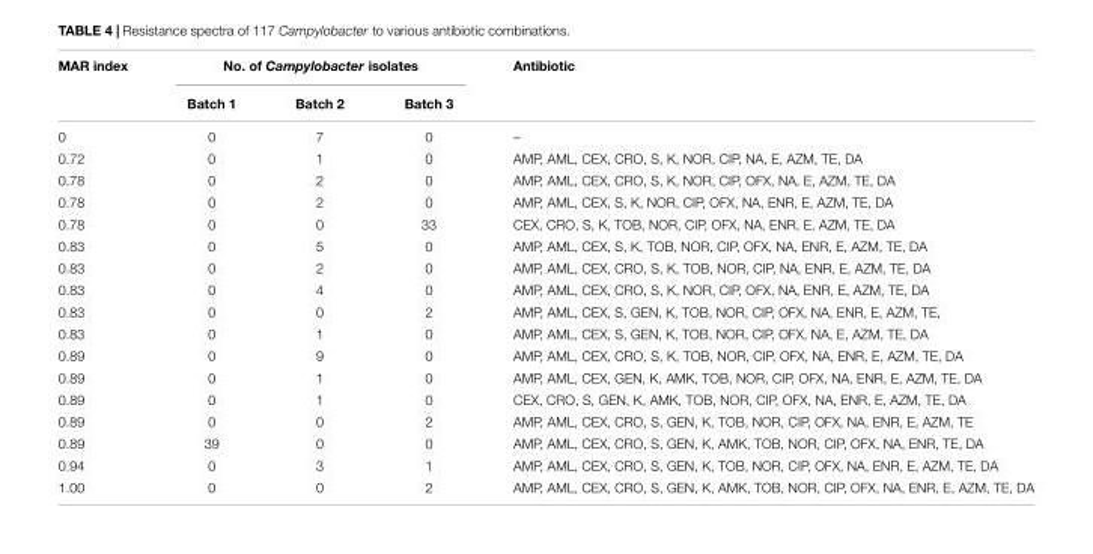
<table><thead><tr><td rowspan="2">MAR index</td><td colspan="3">No. of Campylobacter isolates</td><td rowspan="2">Antibiotic</td></tr><tr><td>Batch 1</td><td>Batch 2</td><td>Batch 3</td></tr></thead><tbody><tr><td>0</td><td>0</td><td>7</td><td>0</td><td>–</td></tr><tr><td>0.72</td><td>0</td><td>1</td><td>0</td><td>AMP, AML, CEX, CRO, S, K, NOR, CIP, NA, E, AZM, TE, DA</td></tr><tr><td>0.78</td><td>0</td><td>2</td><td>0</td><td>AMP, AML, CEX, CRO, S, K, NOR, CIP, OFX, NA, E, AZM, TE, DA</td></tr><tr><td>0.78</td><td>0</td><td>2</td><td>0</td><td>AMP, AML, CEX, S, K, NOR, CIP, OFX, NA, ENR, E, AZM, TE, DA</td></tr><tr><td>0.78</td><td>0</td><td>0</td><td>33</td><td>CEX, CRO, S, K, TOB, NOR, CIP, OFX, NA, ENR, E, AZM, TE, DA</td></tr><tr><td>0.83</td><td>0</td><td>5</td><td>0</td><td>AMP, AML, CEX, S, K, TOB, NOR, CIP, OFX, NA, ENR, E, AZM, TE, DA</td></tr><tr><td>0.83</td><td>0</td><td>2</td><td>0</td><td>AMP, AML, CEX, CRO, S, K, TOB, NOR, CIP, NA, ENR, E, AZM, TE, DA</td></tr><tr><td>0.83</td><td>0</td><td>4</td><td>0</td><td>AMP, AML, CEX, CRO, S, K, NOR, CIP, OFX, NA, ENR, E, AZM, TE, DA</td></tr><tr><td>0.83</td><td>0</td><td>0</td><td>2</td><td>AMP, AML, CEX, S, GEN, K, TOB, NOR, CIP, OFX, NA, ENR, E, AZM, TE,</td></tr><tr><td>0.83</td><td>0</td><td>1</td><td>0</td><td>AMP, AML, CEX, S, GEN, K, TOB, NOR, CIP, OFX, NA, E, AZM, TE, DA</td></tr><tr><td>0.89</td><td>0</td><td>9</td><td>0</td><td>AMP, AML, CEX, CRO, S, K, TOB, NOR, CIP, OFX, NA, ENR, E, AZM, TE, DA</td></tr><tr><td>0.89</td><td>0</td><td>1</td><td>0</td><td>AMP, AML, CEX, GEN, K, AMK, TOB, NOR, CIP, OFX, NA, ENR, E, AZM, TE, DA</td></tr><tr><td>0.89</td><td>0</td><td>1</td><td>0</td><td>CEX, CRO, S, GEN, K, AMK, TOB, NOR, CIP, OFX, NA, ENR, E, AZM, TE, DA</td></tr><tr><td>0.89</td><td>0</td><td>0</td><td>2</td><td>AMP, AML, CEX, CRO, S, GEN, K, TOB, NOR, CIP, OFX, NA, ENR, E, AZM, TE</td></tr><tr><td>0.89</td><td>39</td><td>0</td><td>0</td><td>AMP, AML, CEX, CRO, S, GEN, K, AMK, TOB, NOR, CIP, OFX, NA, ENR, TE, DA</td></tr><tr><td>0.94</td><td>0</td><td>3</td><td>1</td><td>AMP, AML, CEX, CRO, S, GEN, K, TOB, NOR, CIP, OFX, NA, ENR, E, AZM, TE, DA</td></tr><tr><td>1.00</td><td>0</td><td>0</td><td>2</td><td>AMP, AML, CEX, CRO, S, GEN, K, AMK, TOB, NOR, CIP, OFX, NA, ENR, E, AZM, TE, DA</td></tr></tbody></table>